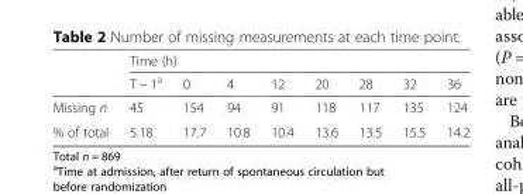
<table><thead><tr><td rowspan="2"></td><td colspan="8">Time (h)</td></tr><tr><td>T − 1<sup>a</sup></td><td>0</td><td>4</td><td>12</td><td>20</td><td>28</td><td>32</td><td>36</td></tr></thead><tbody><tr><td>Missing n</td><td>45</td><td>154</td><td>94</td><td>91</td><td>118</td><td>117</td><td>135</td><td>124</td></tr><tr><td>% of total</td><td>5.18</td><td>17.7</td><td>10.8</td><td>10.4</td><td>13.6</td><td>13.5</td><td>15.5</td><td>14.2</td></tr></tbody></table>